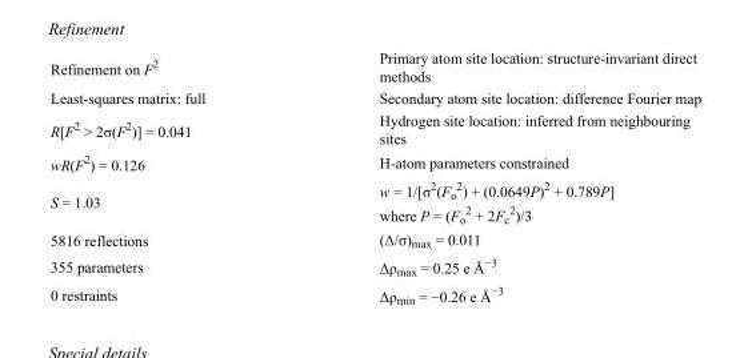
<table><tbody><tr><td>Refinement on F<sup>2</sup></td><td>Primary atom site location: structure-invariant direct methods</td></tr><tr><td>Least-squares matrix: full</td><td>Secondary atom site location: difference Fourier map</td></tr><tr><td>R[F<sup>2</sup> &gt; 2σ(F<sup>2</sup>)] = 0.041</td><td>Hydrogen site location: inferred from neighbouring sites</td></tr><tr><td>wR(F<sup>2</sup>) = 0.126</td><td>H-atom parameters constrained</td></tr><tr><td>S = 1.03</td><td>w = 1/[σ<sup>2</sup>(F<sub>o</sub> <sup>2</sup>) + (0.0649P)<sup>2</sup> + 0.789P] where P = (F<sub>o</sub> <sup>2</sup> + 2F<sub>c</sub> <sup>2</sup>)/3</td></tr><tr><td>5816 reflections</td><td>(Δ/σ)<sub>max</sub> = 0.011</td></tr><tr><td>355 parameters</td><td>Δρ<sub>max</sub> = 0.25 e Å<sup>−3</sup></td></tr><tr><td>0 restraints</td><td>Δρ<sub>min</sub> = −0.26 e Å<sup>−3</sup></td></tr></tbody></table>